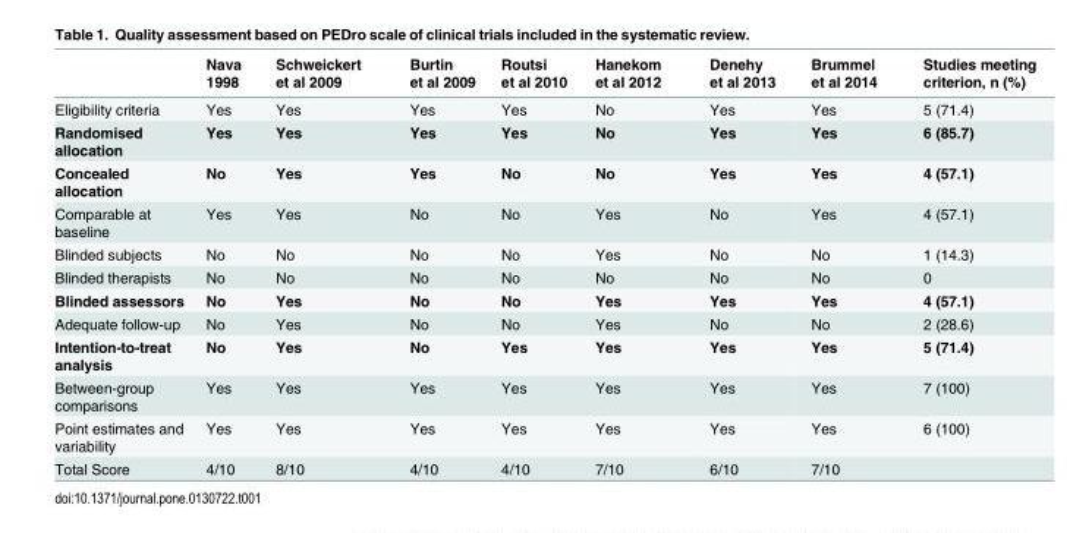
<table><thead><tr><td></td><td>Nava 1998</td><td>Schweickert et al 2009</td><td>Burtin et al 2009</td><td>Routsi et al 2010</td><td>Hanekom et al 2012</td><td>Denehy et al 2013</td><td>Brummel et al 2014</td><td>Studies meeting criterion, n (%)</td></tr></thead><tbody><tr><td>Eligibility criteria</td><td>Yes</td><td>Yes</td><td>Yes</td><td>Yes</td><td>No</td><td>Yes</td><td>Yes</td><td>5 (71.4)</td></tr><tr><td>Randomised allocation</td><td>Yes</td><td>Yes</td><td>Yes</td><td>Yes</td><td>No</td><td>Yes</td><td>Yes</td><td>6 (85.7)</td></tr><tr><td>Concealed allocation</td><td>No</td><td>Yes</td><td>Yes</td><td>No</td><td>No</td><td>Yes</td><td>Yes</td><td>4 (57.1)</td></tr><tr><td>Comparable at baseline</td><td>Yes</td><td>Yes</td><td>No</td><td>No</td><td>Yes</td><td>No</td><td>Yes</td><td>4 (57.1)</td></tr><tr><td>Blinded subjects</td><td>No</td><td>No</td><td>No</td><td>No</td><td>Yes</td><td>No</td><td>No</td><td>1 (14.3)</td></tr><tr><td>Blinded therapists</td><td>No</td><td>No</td><td>No</td><td>No</td><td>No</td><td>No</td><td>No</td><td>0</td></tr><tr><td>Blinded assessors</td><td>No</td><td>Yes</td><td>No</td><td>No</td><td>Yes</td><td>Yes</td><td>Yes</td><td>4 (57.1)</td></tr><tr><td>Adequate follow-up</td><td>No</td><td>Yes</td><td>No</td><td>No</td><td>Yes</td><td>No</td><td>No</td><td>2 (28.6)</td></tr><tr><td>Intention-to-treat analysis</td><td>No</td><td>Yes</td><td>No</td><td>Yes</td><td>Yes</td><td>Yes</td><td>Yes</td><td>5 (71.4)</td></tr><tr><td>Between-group comparisons</td><td>Yes</td><td>Yes</td><td>Yes</td><td>Yes</td><td>Yes</td><td>Yes</td><td>Yes</td><td>7 (100)</td></tr><tr><td>Point estimates and variability</td><td>Yes</td><td>Yes</td><td>Yes</td><td>Yes</td><td>Yes</td><td>Yes</td><td>Yes</td><td>6 (100)</td></tr><tr><td>Total Score</td><td>4/10</td><td>8/10</td><td>4/10</td><td>4/10</td><td>7/10</td><td>6/10</td><td>7/10</td><td></td></tr></tbody></table>